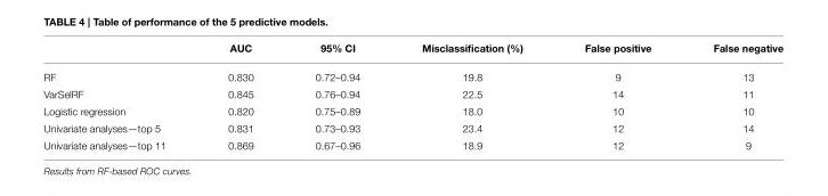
<table><thead><tr><td></td><td>AUC</td><td>95% CI</td><td>Misclassification (%)</td><td>False positive</td><td>False negative</td></tr></thead><tbody><tr><td>RF</td><td>0.830</td><td>0.72–0.94</td><td>19.8</td><td>9</td><td>13</td></tr><tr><td>VarSelRF</td><td>0.845</td><td>0.76–0.94</td><td>22.5</td><td>14</td><td>11</td></tr><tr><td>Logistic regression</td><td>0.820</td><td>0.75–0.89</td><td>18.0</td><td>10</td><td>10</td></tr><tr><td>Univariate analyses—top 5</td><td>0.831</td><td>0.73–0.93</td><td>23.4</td><td>12</td><td>14</td></tr><tr><td>Univariate analyses—top 11</td><td>0.869</td><td>0.67–0.96</td><td>18.9</td><td>12</td><td>9</td></tr></tbody></table>